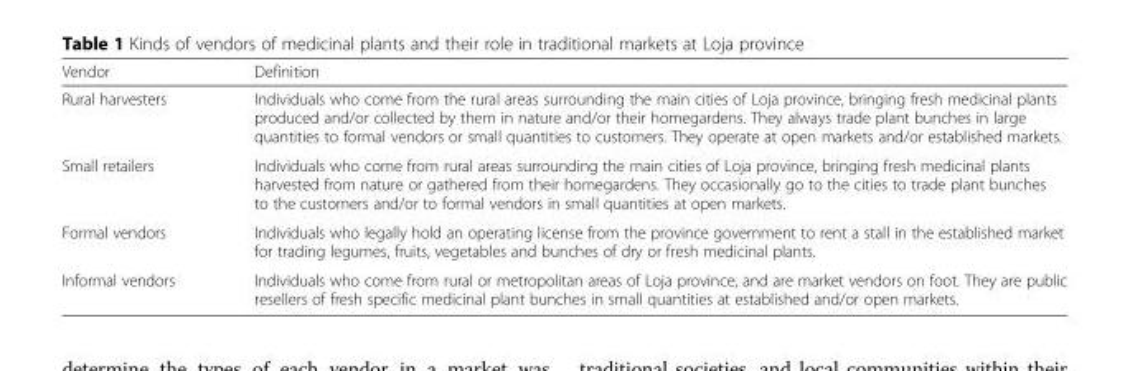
<table><thead><tr><td>Vendor</td><td>Definition</td></tr></thead><tbody><tr><td>Rural harvesters</td><td>Individuals who come from the rural areas surrounding the main cities of Loja province, bringing fresh medicinal plants produced and/or collected by them in nature and/or their homegardens. They always trade plant bunches in large quantities to formal vendors or small quantities to customers. They operate at open markets and/or established markets.</td></tr><tr><td>Small retailers</td><td>Individuals who come from rural areas surrounding the main cities of Loja province, bringing fresh medicinal plants harvested from nature or gathered from their homegardens. They occasionally go to the cities to trade plant bunches to the customers and/or to formal vendors in small quantities at open markets.</td></tr><tr><td>Formal vendors</td><td>Individuals who legally hold an operating license from the province government to rent a stall in the established market for trading legumes, fruits, vegetables and bunches of dry or fresh medicinal plants.</td></tr><tr><td>Informal vendors</td><td>Individuals who come from rural or metropolitan areas of Loja province, and are market vendors on foot. They are public resellers of fresh specific medicinal plant bunches in small quantities at established and/or open markets.</td></tr></tbody></table>